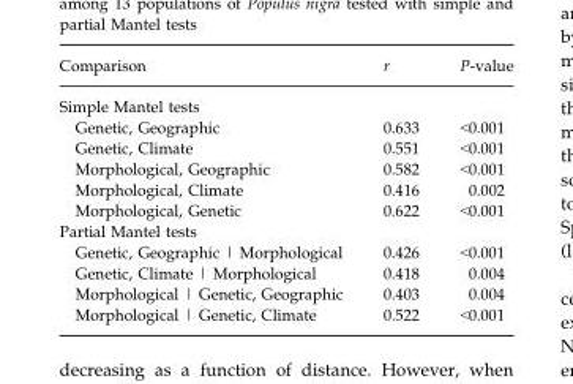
<table><thead><tr><td>Comparison</td><td>r</td><td>P-value</td></tr></thead><tbody><tr><td colspan="3">Simple Mantel tests</td></tr><tr><td>Genetic, Geographic</td><td>0.633</td><td>&lt;0.001</td></tr><tr><td>Genetic, Climate</td><td>0.551</td><td>&lt;0.001</td></tr><tr><td>Morphological, Geographic</td><td>0.582</td><td>&lt;0.001</td></tr><tr><td>Morphological, Climate</td><td>0.416</td><td>0.002</td></tr><tr><td>Morphological, Genetic</td><td>0.622</td><td>&lt;0.001</td></tr><tr><td colspan="3">Partial Mantel tests</td></tr><tr><td>Genetic, Geographic | Morphological</td><td>0.426</td><td>&lt;0.001</td></tr><tr><td>Genetic, Climate | Morphological</td><td>0.418</td><td>0.004</td></tr><tr><td>Morphological | Genetic, Geographic</td><td>0.403</td><td>0.004</td></tr><tr><td>Morphological | Genetic, Climate</td><td>0.522</td><td>&lt;0.001</td></tr></tbody></table>